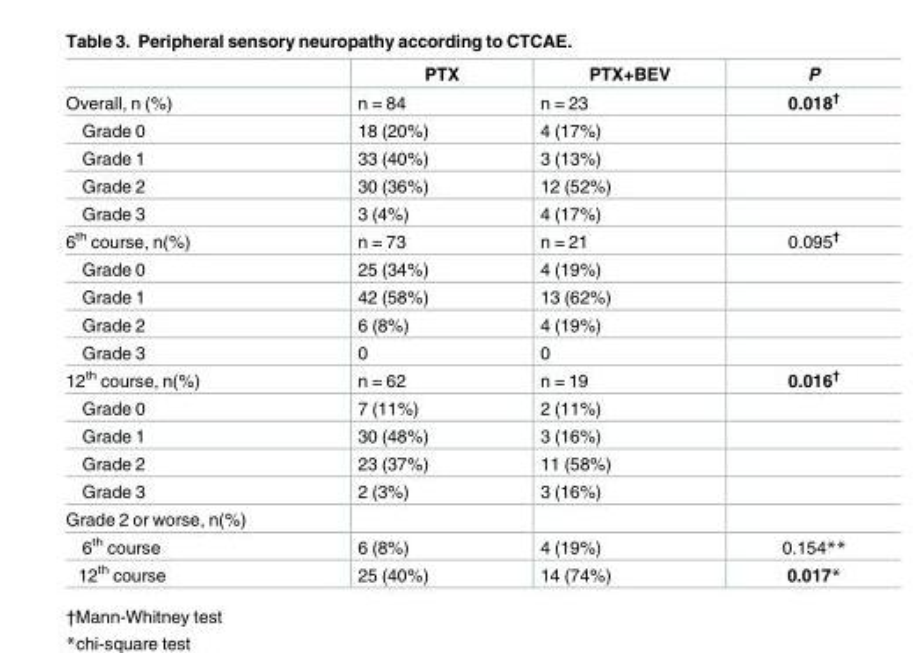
<table><thead><tr><td></td><td>PTX</td><td>PTX+BEV</td><td>P</td></tr></thead><tbody><tr><td>Overall, n (%)</td><td>n = 84</td><td>n = 23</td><td>0.018<sup>†</sup></td></tr><tr><td>Grade 0</td><td>18 (20%)</td><td>4 (17%)</td><td></td></tr><tr><td>Grade 1</td><td>33 (40%)</td><td>3 (13%)</td><td></td></tr><tr><td>Grade 2</td><td>30 (36%)</td><td>12 (52%)</td><td></td></tr><tr><td>Grade 3</td><td>3 (4%)</td><td>4 (17%)</td><td></td></tr><tr><td>6<sup>th</sup> course, n(%)</td><td>n = 73</td><td>n = 21</td><td>0.095<sup>†</sup></td></tr><tr><td>Grade 0</td><td>25 (34%)</td><td>4 (19%)</td><td></td></tr><tr><td>Grade 1</td><td>42 (58%)</td><td>13 (62%)</td><td></td></tr><tr><td>Grade 2</td><td>6 (8%)</td><td>4 (19%)</td><td></td></tr><tr><td>Grade 3</td><td>0</td><td>0</td><td></td></tr><tr><td>12<sup>th</sup> course, n(%)</td><td>n = 62</td><td>n = 19</td><td>0.016<sup>†</sup></td></tr><tr><td>Grade 0</td><td>7 (11%)</td><td>2 (11%)</td><td></td></tr><tr><td>Grade 1</td><td>30 (48%)</td><td>3 (16%)</td><td></td></tr><tr><td>Grade 2</td><td>23 (37%)</td><td>11 (58%)</td><td></td></tr><tr><td>Grade 3</td><td>2 (3%)</td><td>3 (16%)</td><td></td></tr><tr><td colspan="4">Grade 2 or worse, n(%)</td></tr><tr><td>6<sup>th</sup> course</td><td>6 (8%)</td><td>4 (19%)</td><td>0.154**</td></tr><tr><td>12<sup>th</sup> course</td><td>25 (40%)</td><td>14 (74%)</td><td>0.017*</td></tr></tbody></table>